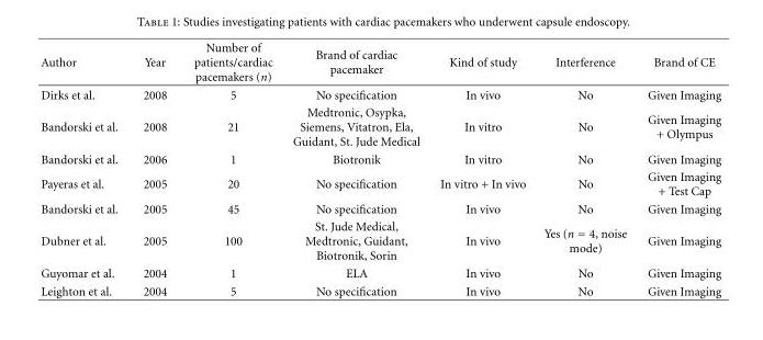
<table><thead><tr><td>Author</td><td>Year</td><td>Number of patients/cardiac pacemakers (n)</td><td>Brand of cardiac pacemaker</td><td>Kind of study</td><td>Interference</td><td>Brand of CE</td></tr></thead><tbody><tr><td>Dirks et al.</td><td>2008</td><td>5</td><td>No specification</td><td>In vivo</td><td>No</td><td>Given Imaging</td></tr><tr><td>Bandorski et al.</td><td>2008</td><td>21</td><td>Medtronic, Osypka, Siemens, Vitatron, Ela, Guidant, St. Jude Medical</td><td>In vitro</td><td>No</td><td>Given Imaging + Olympus</td></tr><tr><td>Bandorski et al.</td><td>2006</td><td>1</td><td>Biotronik</td><td>In vitro</td><td>No</td><td>Given Imaging</td></tr><tr><td>Payeras et al.</td><td>2005</td><td>20</td><td>No specification</td><td>In vitro + In vivo</td><td>No</td><td>Given Imaging + Test Cap</td></tr><tr><td>Bandorski et al.</td><td>2005</td><td>45</td><td>No specification</td><td>In vivo</td><td>No</td><td>Given Imaging</td></tr><tr><td>Dubner et al.</td><td>2005</td><td>100</td><td>St. Jude Medical, Medtronic, Guidant, Biotronik, Sorin</td><td>In vivo</td><td>Yes (n = 4, noise mode)</td><td>Given Imaging</td></tr><tr><td>Guyomar et al.</td><td>2004</td><td>1</td><td>ELA</td><td>In vivo</td><td>No</td><td>Given Imaging</td></tr><tr><td>Leighton et al.</td><td>2004</td><td>5</td><td>No specification</td><td>In vivo</td><td>No</td><td>Given Imaging</td></tr></tbody></table>